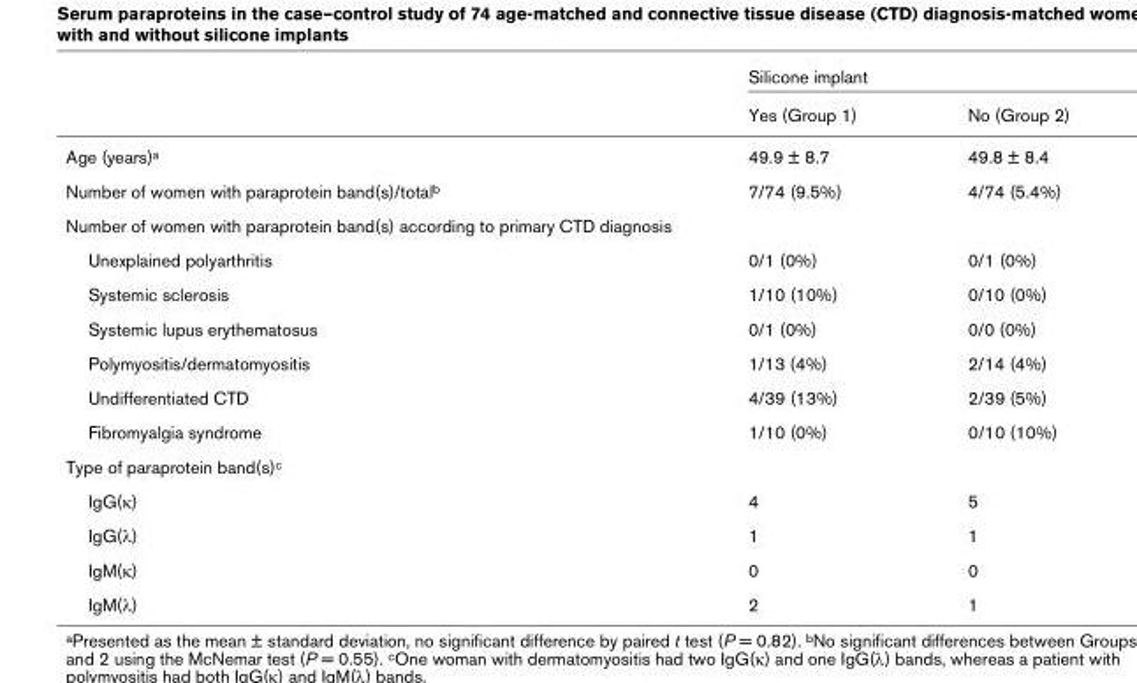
<table><thead><tr><td rowspan="2"></td><td colspan="2">Silicone implant</td></tr><tr><td>Yes (Group 1)</td><td>No (Group 2)</td></tr></thead><tbody><tr><td>Age (years)<sup>a</sup></td><td>49.9 ± 8.7</td><td>49.8 ± 8.4</td></tr><tr><td>Number of women with paraprotein band(s)/total<sup>b</sup></td><td>7/74 (9.5%)</td><td>4/74 (5.4%)</td></tr><tr><td colspan="3">Number of women with paraprotein band(s) according to primary CTD diagnosis</td></tr><tr><td>Unexplained polyarthritis</td><td>0/1 (0%)</td><td>0/1 (0%)</td></tr><tr><td>Systemic sclerosis</td><td>1/10 (10%)</td><td>0/10 (0%)</td></tr><tr><td>Systemic lupus erythematosus</td><td>0/1 (0%)</td><td>0/0 (0%)</td></tr><tr><td>Polymyositis/dermatomyositis</td><td>1/13 (4%)</td><td>2/14 (4%)</td></tr><tr><td>Undifferentiated CTD</td><td>4/39 (13%)</td><td>2/39 (5%)</td></tr><tr><td>Fibromyalgia syndrome</td><td>1/10 (0%)</td><td>0/10 (10%)</td></tr><tr><td colspan="3">Type of paraprotein band(s)<sup>c</sup></td></tr><tr><td>IgG(κ)</td><td>4</td><td>5</td></tr><tr><td>IgG(λ)</td><td>1</td><td>1</td></tr><tr><td>IgM(κ)</td><td>0</td><td>0</td></tr><tr><td>IgM(λ)</td><td>2</td><td>1</td></tr></tbody></table>